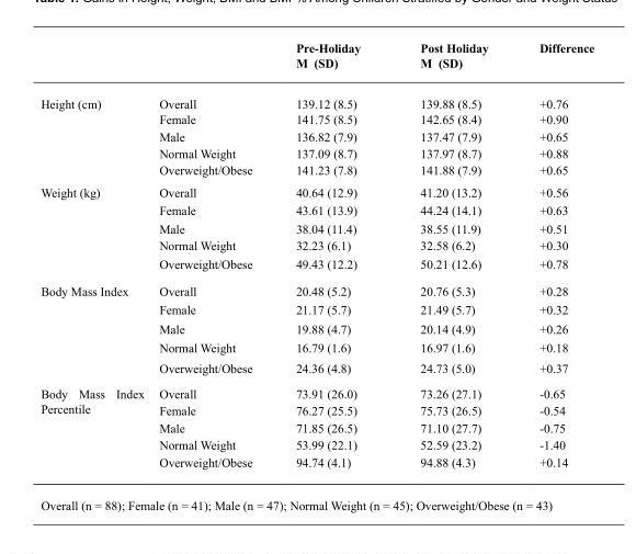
<table><thead><tr><td></td><td></td><td>Pre-Holiday M (SD)</td><td>Post Holiday M (SD)</td><td>Difference</td></tr></thead><tbody><tr><td rowspan="5">Height (cm)</td><td>Overall</td><td>139.12 (8.5)</td><td>139.88 (8.5)</td><td>+0.76</td></tr><tr><td>Female</td><td>141.75 (8.5)</td><td>142.65 (8.4)</td><td>+0.90</td></tr><tr><td>Male</td><td>136.82 (7.9)</td><td>137.47 (7.9)</td><td>+0.65</td></tr><tr><td>Normal Weight</td><td>137.09 (8.7)</td><td>137.97 (8.7)</td><td>+0.88</td></tr><tr><td>Overweight/Obese</td><td>141.23 (7.8)</td><td>141.88 (7.9)</td><td>+0.65</td></tr><tr><td rowspan="5">Weight (kg)</td><td>Overall</td><td>40.64 (12.9)</td><td>41.20 (13.2)</td><td>+0.56</td></tr><tr><td>Female</td><td>43.61 (13.9)</td><td>44.24 (14.1)</td><td>+0.63</td></tr><tr><td>Male</td><td>38.04 (11.4)</td><td>38.55 (11.9)</td><td>+0.51</td></tr><tr><td>Normal Weight</td><td>32.23 (6.1)</td><td>32.58 (6.2)</td><td>+0.30</td></tr><tr><td>Overweight/Obese</td><td>49.43 (12.2)</td><td>50.21 (12.6)</td><td>+0.78</td></tr><tr><td rowspan="5">Body Mass Index</td><td>Overall</td><td>20.48 (5.2)</td><td>20.76 (5.3)</td><td>+0.28</td></tr><tr><td>Female</td><td>21.17 (5.7)</td><td>21.49 (5.7)</td><td>+0.32</td></tr><tr><td>Male</td><td>19.88 (4.7)</td><td>20.14 (4.9)</td><td>+0.26</td></tr><tr><td>Normal Weight</td><td>16.79 (1.6)</td><td>16.97 (1.6)</td><td>+0.18</td></tr><tr><td>Overweight/Obese</td><td>24.36 (4.8)</td><td>24.73 (5.0)</td><td>+0.37</td></tr><tr><td rowspan="5">Body Mass Index Percentile</td><td>Overall</td><td>73.91 (26.0)</td><td>73.26 (27.1)</td><td>-0.65</td></tr><tr><td>Female</td><td>76.27 (25.5)</td><td>75.73 (26.5)</td><td>-0.54</td></tr><tr><td>Male</td><td>71.85 (26.5)</td><td>71.10 (27.7)</td><td>-0.75</td></tr><tr><td>Normal Weight</td><td>53.99 (22.1)</td><td>52.59 (23.2)</td><td>-1.40</td></tr><tr><td>Overweight/Obese</td><td>94.74 (4.1)</td><td>94.88 (4.3)</td><td>+0.14</td></tr><tr><td colspan="5">Overall (n = 88); Female (n = 41); Male (n = 47); Normal Weight (n = 45); Overweight/Obese (n = 43)</td></tr></tbody></table>